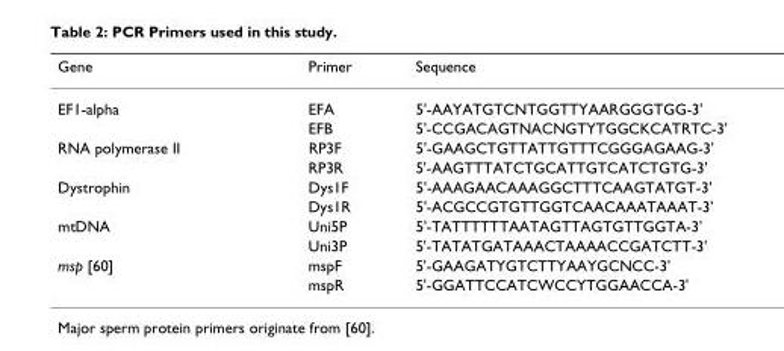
<table><thead><tr><td>Gene</td><td>Primer</td><td>Sequence</td></tr></thead><tbody><tr><td rowspan="2">EF1-alpha</td><td>EFA</td><td>5&#x27;-AAYATGTCNTGGTTYAARGGGTGG-3&#x27;</td></tr><tr><td>EFB</td><td>5&#x27;-CCGACAGTNACNGTYTGGCKCATRTC-3&#x27;</td></tr><tr><td rowspan="2">RNA polymerase II</td><td>RP3F</td><td>5&#x27;-GAAGCTGTTATTGTTTCGGGAGAAG-3&#x27;</td></tr><tr><td>RP3R</td><td>5&#x27;-AAGTTTATCTGCATTGTCATCTGTG-3&#x27;</td></tr><tr><td rowspan="2">Dystrophin</td><td>Dys1F</td><td>5&#x27;-AAAGAACAAAGGCTTTCAAGTATGT-3&#x27;</td></tr><tr><td>Dys1R</td><td>5&#x27;-ACGCCGTGTTGGTCAACAAATAAAT-3&#x27;</td></tr><tr><td rowspan="2">mtDNA</td><td>Uni5P</td><td>5&#x27;-TATTTTTTAATAGTTAGTGTTGGTA-3&#x27;</td></tr><tr><td>Uni3P</td><td>5&#x27;-TATATGATAAACTAAAACCGATCTT-3&#x27;</td></tr><tr><td rowspan="2">msp [60]</td><td>mspF</td><td>5&#x27;-GAAGATYGTCTTYAAYGCNCC-3&#x27;</td></tr><tr><td>mspR</td><td>5&#x27;-GGATTCCATCWCCYTGGAACCA-3&#x27;</td></tr></tbody></table>